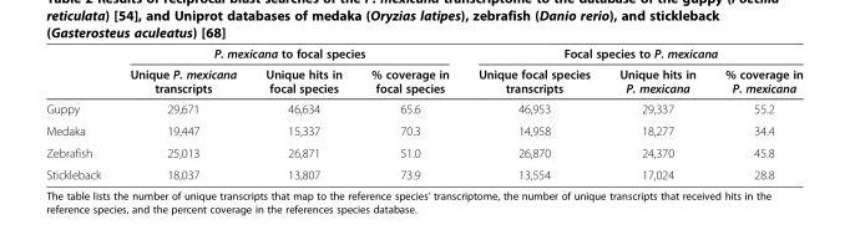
<table><thead><tr><td rowspan="2"></td><td colspan="3">P. mexicana to focal species</td><td colspan="3">Focal species to P. mexicana</td></tr><tr><td>Unique P. mexicana transcripts</td><td>Unique hits in focal species</td><td>% coverage in focal species</td><td>Unique focal species transcripts</td><td>Unique hits in P. mexicana</td><td>% coverage in P. mexicana</td></tr></thead><tbody><tr><td>Guppy</td><td>29,671</td><td>46,634</td><td>65.6</td><td>46,953</td><td>29,337</td><td>55.2</td></tr><tr><td>Medaka</td><td>19,447</td><td>15,337</td><td>70.3</td><td>14,958</td><td>18,277</td><td>34.4</td></tr><tr><td>Zebrafish</td><td>25,013</td><td>26,871</td><td>51.0</td><td>26,870</td><td>24,370</td><td>45.8</td></tr><tr><td>Stickleback</td><td>18,037</td><td>13,807</td><td>73.9</td><td>13,554</td><td>17,024</td><td>28.8</td></tr></tbody></table>